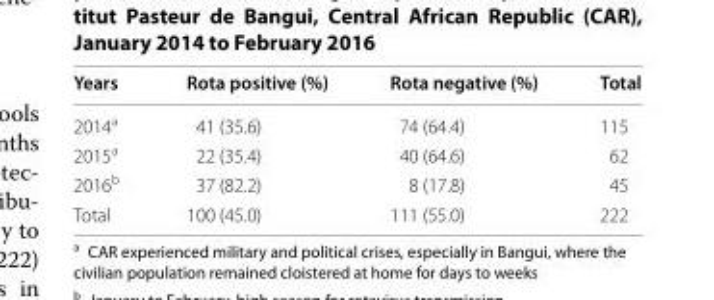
<table><thead><tr><td>Years</td><td>Rota positive (%)</td><td>Rota negative (%)</td><td>Total</td></tr></thead><tbody><tr><td>2014<sup>a</sup></td><td>41 (35.6)</td><td>74 (64.4)</td><td>115</td></tr><tr><td>2015<sup>a</sup></td><td>22 (35.4)</td><td>40 (64.6)</td><td>62</td></tr><tr><td>2016<sup>b</sup></td><td>37 (82.2)</td><td>8 (17.8)</td><td>45</td></tr><tr><td>Total</td><td>100 (45.0)</td><td>111 (55.0)</td><td>222</td></tr></tbody></table>